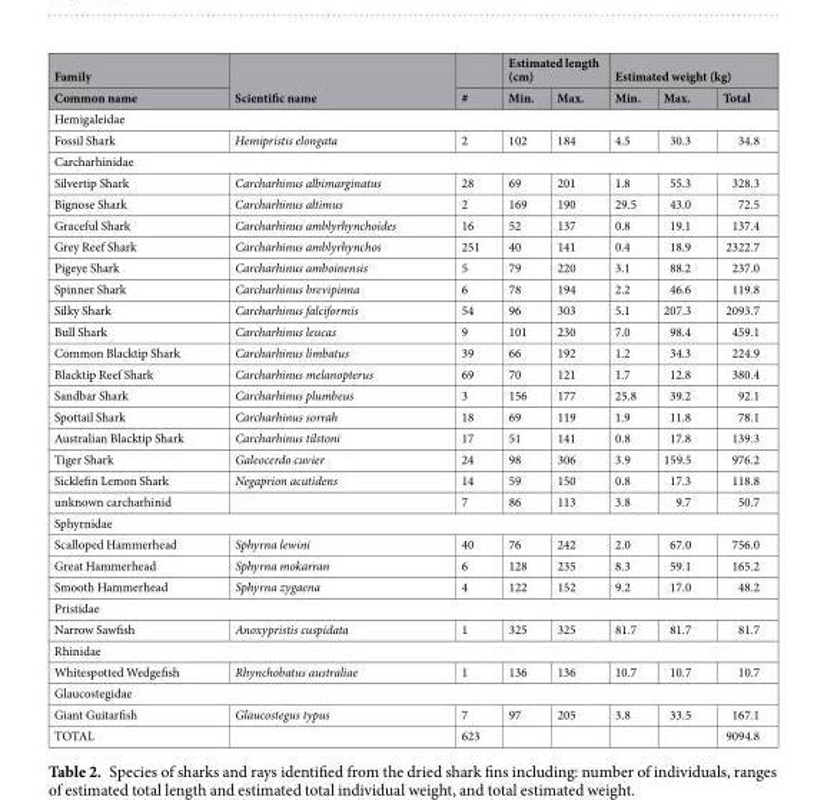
<table><thead><tr><td rowspan="2">Family Common name</td><td rowspan="2">Scientific name</td><td rowspan="2">#</td><td colspan="2">Estimated length (cm)</td><td colspan="3">Estimated weight (kg)</td></tr><tr><td>Min.</td><td>Max.</td><td>Min.</td><td>Max.</td><td>Total</td></tr></thead><tbody><tr><td colspan="8">Hemigaleidae</td></tr><tr><td>Fossil Shark</td><td>Hemipristis elongata</td><td>2</td><td>102</td><td>184</td><td>4.5</td><td>30.3</td><td>34.8</td></tr><tr><td colspan="8">Carcharhinidae</td></tr><tr><td>Silvertip Shark</td><td>Carcharhinus albimarginatus</td><td>28</td><td>69</td><td>201</td><td>1.8</td><td>55.3</td><td>328.3</td></tr><tr><td>Bignose Shark</td><td>Carcharhinus altimus</td><td>2</td><td>169</td><td>190</td><td>29.5</td><td>43.0</td><td>72.5</td></tr><tr><td>Graceful Shark</td><td>Carcharhinus amblyrhynchoides</td><td>16</td><td>52</td><td>137</td><td>0.8</td><td>19.1</td><td>137.4</td></tr><tr><td>Grey Reef Shark</td><td>Carcharhinus amblyrhynchos</td><td>251</td><td>40</td><td>141</td><td>0.4</td><td>18.9</td><td>2322.7</td></tr><tr><td>Pigeye Shark</td><td>Carcharhinus amboinensis</td><td>5</td><td>79</td><td>220</td><td>3.1</td><td>88.2</td><td>237.0</td></tr><tr><td>Spinner Shark</td><td>Carcharhinus brevipinna</td><td>6</td><td>78</td><td>194</td><td>2.2</td><td>46.6</td><td>119.8</td></tr><tr><td>Silky Shark</td><td>Carcharhinus falciformis</td><td>54</td><td>96</td><td>303</td><td>5.1</td><td>207.3</td><td>2093.7</td></tr><tr><td>Bull Shark</td><td>Carcharhinus leucas</td><td>9</td><td>101</td><td>230</td><td>7.0</td><td>98.4</td><td>459.1</td></tr><tr><td>Common Blacktip Shark</td><td>Carcharhinus limbatus</td><td>39</td><td>66</td><td>192</td><td>1.2</td><td>34.3</td><td>224.9</td></tr><tr><td>Blacktip Reef Shark</td><td>Carcharhinus melanopterus</td><td>69</td><td>70</td><td>121</td><td>1.7</td><td>12.8</td><td>380.4</td></tr><tr><td>Sandbar Shark</td><td>Carcharhinus plumbeus</td><td>3</td><td>156</td><td>177</td><td>25.8</td><td>39.2</td><td>92.1</td></tr><tr><td>Spottail Shark</td><td>Carcharhinus sorrah</td><td>18</td><td>69</td><td>119</td><td>1.9</td><td>11.8</td><td>78.1</td></tr><tr><td>Australian Blacktip Shark</td><td>Carcharhinus tilstoni</td><td>17</td><td>51</td><td>141</td><td>0.8</td><td>17.8</td><td>139.3</td></tr><tr><td>Tiger Shark</td><td>Galeocerdo cuvier</td><td>24</td><td>98</td><td>306</td><td>3.9</td><td>159.5</td><td>976.2</td></tr><tr><td>Sicklefin Lemon Shark</td><td>Negaprion acutidens</td><td>14</td><td>59</td><td>150</td><td>0.8</td><td>17.3</td><td>118.8</td></tr><tr><td>unknown carcharhinid</td><td></td><td>7</td><td>86</td><td>113</td><td>3.8</td><td>9.7</td><td>50.7</td></tr><tr><td colspan="8">Sphyrnidae</td></tr><tr><td>Scalloped Hammerhead</td><td>Sphyrna lewini</td><td>40</td><td>76</td><td>242</td><td>2.0</td><td>67.0</td><td>756.0</td></tr><tr><td>Great Hammerhead</td><td>Sphyrna mokarran</td><td>6</td><td>128</td><td>235</td><td>8.3</td><td>59.1</td><td>165.2</td></tr><tr><td>Smooth Hammerhead</td><td>Sphyrna zygaena</td><td>4</td><td>122</td><td>152</td><td>9.2</td><td>17.0</td><td>48.2</td></tr><tr><td colspan="8">Pristidae</td></tr><tr><td>Narrow Sawfish</td><td>Anoxypristis cuspidata</td><td>1</td><td>325</td><td>325</td><td>81.7</td><td>81.7</td><td>81.7</td></tr><tr><td colspan="8">Rhinidae</td></tr><tr><td>Whitespotted Wedgefish</td><td>Rhynchobatus australiae</td><td>1</td><td>136</td><td>136</td><td>10.7</td><td>10.7</td><td>10.7</td></tr><tr><td colspan="8">Glaucostegidae</td></tr><tr><td>Giant Guitarfish</td><td>Glaucostegus typus</td><td>7</td><td>97</td><td>205</td><td>3.8</td><td>33.5</td><td>167.1</td></tr><tr><td>TOTAL</td><td></td><td>623</td><td></td><td></td><td></td><td></td><td>9094.8</td></tr></tbody></table>